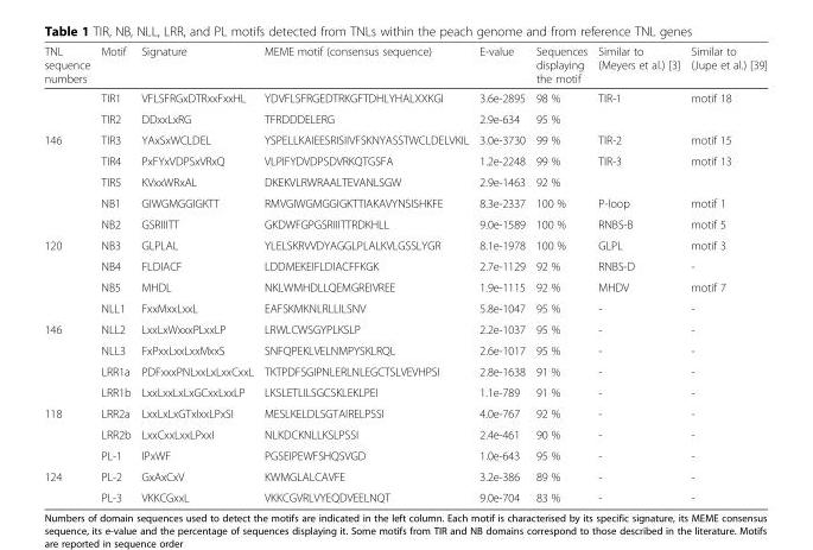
<table><thead><tr><td>TNL sequence numbers</td><td>Motif</td><td>Signature</td><td>MEME motif (consensus sequence)</td><td>E-value</td><td>Sequences displaying the motif</td><td>Similar to (Meyers et al.) [3]</td><td>Similar to (Jupe et al.) [39]</td></tr></thead><tbody><tr><td></td><td>TIR1</td><td>VFLSFRGxDTRxxFxxHL</td><td>YDVFLSFRGEDTRKGFTDHLYHALXXKGI</td><td>3.6e-2895</td><td>98 %</td><td>TIR-1</td><td>motif 18</td></tr><tr><td></td><td>TIR2</td><td>DDxxLxRG</td><td>TFRDDDELERG</td><td>2.9e-634</td><td>95 %</td><td></td><td></td></tr><tr><td rowspan="5">146</td><td>TIR3</td><td>YAxSxWCLDEL</td><td>YSPELLKAIEESRISIIVFSKNYASSTWCLDELVKIL</td><td>3.0e-3730</td><td>99 %</td><td>TIR-2</td><td>motif 15</td></tr><tr><td>TIR4</td><td>PxFYxVDPSxVRxQ</td><td>VLPIFYDVDPSDVRKQTGSFA</td><td>1.2e-2248</td><td>99 %</td><td>TIR-3</td><td>motif 13</td></tr><tr><td>TIR5</td><td>KVxxWRxAL</td><td>DKEKVLRWRAALTEVANLSGW</td><td>2.9e-1463</td><td>92 %</td><td></td><td></td></tr><tr><td>NB1</td><td>GIWGMGGIGKTT</td><td>RMVGIWGMGGIGKTTIAKAVYNSISHKFE</td><td>8.3e-2337</td><td>100 %</td><td>P-loop</td><td>motif 1</td></tr><tr><td>NB2</td><td>GSRIIITT</td><td>GKDWFGPGSRIIITTRDKHLL</td><td>9.0e-1589</td><td>100 %</td><td>RNBS-B</td><td>motif 5</td></tr><tr><td rowspan="4">120</td><td>NB3</td><td>GLPLAL</td><td>YLELSKRVVDYAGGLPLALKVLGSSLYGR</td><td>8.1e-1978</td><td>100 %</td><td>GLPL</td><td>motif 3</td></tr><tr><td>NB4</td><td>FLDIACF</td><td>LDDMEKEIFLDIACFFKGK</td><td>2.7e-1129</td><td>92 %</td><td>RNBS-D</td><td>-</td></tr><tr><td>NB5</td><td>MHDL</td><td>NKLWMHDLLQEMGREIVREE</td><td>1.9e-1115</td><td>92 %</td><td>MHDV</td><td>motif 7</td></tr><tr><td>NLL1</td><td>FxxMxxLxxL</td><td>EAFSKMKNLRLLILSNV</td><td>5.8e-1047</td><td>95 %</td><td>-</td><td>-</td></tr><tr><td rowspan="4">146</td><td>NLL2</td><td>LxxLxWxxxPLxxLP</td><td>LRWLCWSGYPLKSLP</td><td>2.2e-1037</td><td>95 %</td><td>-</td><td>-</td></tr><tr><td>NLL3</td><td>FxPxxLxxLxxMxxS</td><td>SNFQPEKLVELNMPYSKLRQL</td><td>2.6e-1017</td><td>95 %</td><td>-</td><td>-</td></tr><tr><td>LRR1a</td><td>PDFxxxPNLxxLxLxxCxxL</td><td>TKTPDFSGIPNLERLNLEGCTSLVEVHPSI</td><td>2.8e-1638</td><td>91 %</td><td>-</td><td>-</td></tr><tr><td>LRR1b</td><td>LxxLxxLxLxGCxxLxxLP</td><td>LKSLETLILSGCSKLEKLPEI</td><td>1.1e-789</td><td>91 %</td><td>-</td><td>-</td></tr><tr><td rowspan="3">118</td><td>LRR2a</td><td>LxxLxLxGTxIxxLPxSI</td><td>MESLKELDLSGTAIRELPSSI</td><td>4.0e-767</td><td>92 %</td><td>-</td><td>-</td></tr><tr><td>LRR2b</td><td>LxxCxxLxxLPxxI</td><td>NLKDCKNLLKSLPSSI</td><td>2.4e-461</td><td>90 %</td><td>-</td><td>-</td></tr><tr><td>PL-1</td><td>IPxWF</td><td>PGSEIPEWFSHQSVGD</td><td>1.0e-643</td><td>95 %</td><td>-</td><td>-</td></tr><tr><td rowspan="2">124</td><td>PL-2</td><td>GxAxCxV</td><td>KWMGLALCAVFE</td><td>3.2e-386</td><td>89 %</td><td>-</td><td>-</td></tr><tr><td>PL-3</td><td>VKKCGxxL</td><td>VKKCGVRLVYEQDVEELNQT</td><td>9.0e-704</td><td>83 %</td><td>-</td><td>-</td></tr></tbody></table>